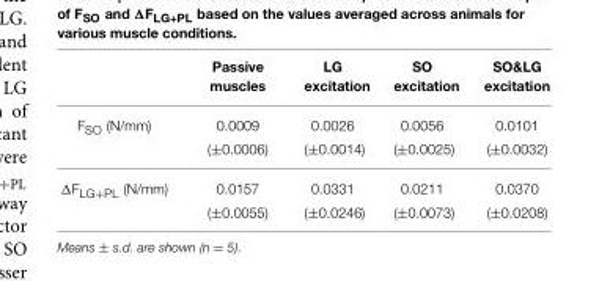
<table><thead><tr><td></td><td>Passive muscles</td><td>LG excitation</td><td>SO excitation</td><td>SO&amp;LG excitation</td></tr></thead><tbody><tr><td rowspan="2">F<sub>SO</sub> (N/mm)</td><td>0.0009</td><td>0.0026</td><td>0.0056</td><td>0.0101</td></tr><tr><td>(±0.0006)</td><td>(±0.0014)</td><td>(±0.0025)</td><td>(±0.0032)</td></tr><tr><td rowspan="2">ΔF<sub>LG+PL</sub> (N/mm)</td><td>0.0157</td><td>0.0331</td><td>0.0211</td><td>0.0370</td></tr><tr><td>(±0.0055)</td><td>(±0.0246)</td><td>(±0.0073)</td><td>(±0.0208)</td></tr></tbody></table>